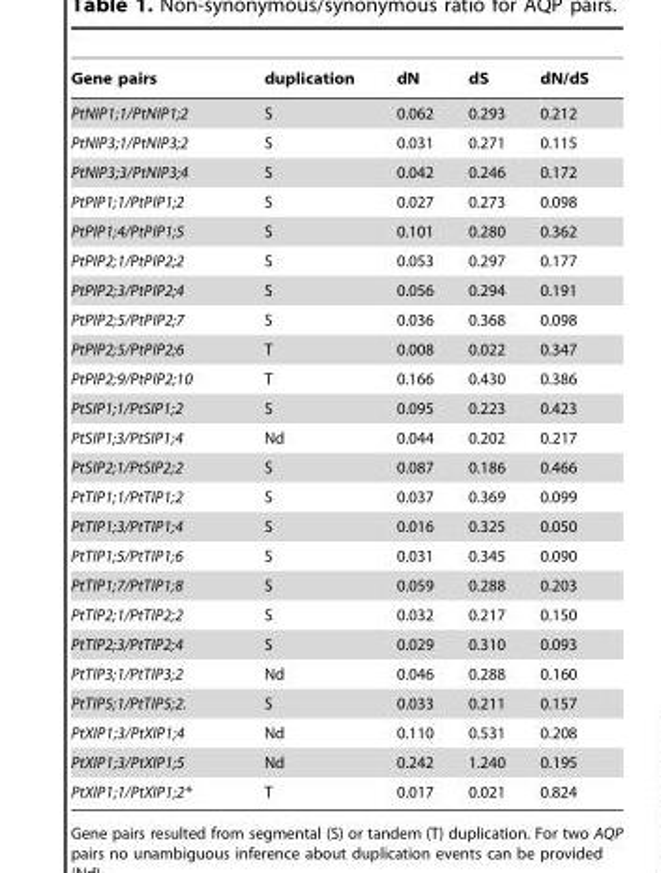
<table><thead><tr><td>Gene pairs</td><td>duplication</td><td>dN</td><td>dS</td><td>dN/dS</td></tr></thead><tbody><tr><td>PtNIP1;1/PtNIP1;2</td><td>S</td><td>0.062</td><td>0.293</td><td>0.212</td></tr><tr><td>PtNIP3;1/PtNIP3;2</td><td>S</td><td>0.031</td><td>0.271</td><td>0.115</td></tr><tr><td>PtNIP3;3/PtNIP3;4</td><td>S</td><td>0.042</td><td>0.246</td><td>0.172</td></tr><tr><td>PtPIP1;1/PtPIP1;2</td><td>S</td><td>0.027</td><td>0.273</td><td>0.098</td></tr><tr><td>PtPIP1;4/PtPIP1;5</td><td>S</td><td>0.101</td><td>0.280</td><td>0.362</td></tr><tr><td>PtPIP2;1/PtPIP2;2</td><td>S</td><td>0.053</td><td>0.297</td><td>0.177</td></tr><tr><td>PtPIP2;3/PtPIP2;4</td><td>S</td><td>0.056</td><td>0.294</td><td>0.191</td></tr><tr><td>PtPIP2;5/PtPIP2;7</td><td>S</td><td>0.036</td><td>0.368</td><td>0.098</td></tr><tr><td>PtPIP2;5/PtPIP2;6</td><td>T</td><td>0.008</td><td>0.022</td><td>0.347</td></tr><tr><td>PtPIP2;9/PtPIP2;10</td><td>T</td><td>0.166</td><td>0.430</td><td>0.386</td></tr><tr><td>PtSIP1;1/PtSIP1;2</td><td>S</td><td>0.095</td><td>0.223</td><td>0.423</td></tr><tr><td>PtSIP1;3/PtSIP1;4</td><td>Nd</td><td>0.044</td><td>0.202</td><td>0.217</td></tr><tr><td>PtSIP2;1/PtSIP2;2</td><td>S</td><td>0.087</td><td>0.186</td><td>0.466</td></tr><tr><td>PtTIP1;1/PtTIP1;2</td><td>S</td><td>0.037</td><td>0.369</td><td>0.099</td></tr><tr><td>PtTIP1;3/PtTIP1;4</td><td>S</td><td>0.016</td><td>0.325</td><td>0.050</td></tr><tr><td>PtTIP1;5/PtTIP1;6</td><td>S</td><td>0.031</td><td>0.345</td><td>0.090</td></tr><tr><td>PtTIP1;7/PtTIP1;8</td><td>S</td><td>0.059</td><td>0.288</td><td>0.203</td></tr><tr><td>PtTIP2;1/PtTIP2;2</td><td>S</td><td>0.032</td><td>0.217</td><td>0.150</td></tr><tr><td>PtTIP2;3/PtTIP2;4</td><td>S</td><td>0.029</td><td>0.310</td><td>0.093</td></tr><tr><td>PtTIP3;1/PtTIP3;2</td><td>Nd</td><td>0.046</td><td>0.288</td><td>0.160</td></tr><tr><td>PtTIP5;1/PtTIP5;2.</td><td>S</td><td>0.033</td><td>0.211</td><td>0.157</td></tr><tr><td>PtXIP1;3/PtXIP1;4</td><td>Nd</td><td>0.110</td><td>0.531</td><td>0.208</td></tr><tr><td>PtXIP1;3/PtXIP1;5</td><td>Nd</td><td>0.242</td><td>1.240</td><td>0.195</td></tr><tr><td>PtXIP1;1/PtXIP1;2*</td><td>T</td><td>0.017</td><td>0.021</td><td>0.824</td></tr></tbody></table>